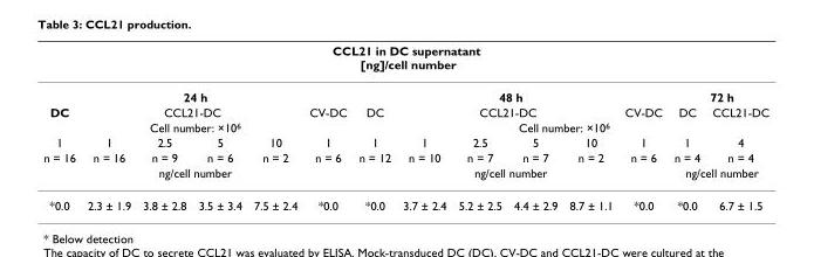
<table><thead><tr><td colspan="14">CCL21 in DC supernatant [ng]/cell number</td></tr></thead><tbody><tr><td colspan="6">24 h</td><td colspan="6">48 h</td><td colspan="2">72 h</td></tr><tr><td>DC</td><td colspan="4">CCL21-DC</td><td>CV-DC</td><td>DC</td><td colspan="4">CCL21-DC</td><td>CV-DC</td><td>DC</td><td>CCL21-DC</td></tr><tr><td colspan="6">Cell number: ×10<sup>6</sup></td><td colspan="8">Cell number: ×10<sup>6</sup></td></tr><tr><td>1</td><td>1</td><td>2.5</td><td>5</td><td>10</td><td>1</td><td>1</td><td>1</td><td>2.5</td><td>5</td><td>10</td><td>1</td><td>1</td><td>4</td></tr><tr><td>n = 16</td><td>n = 16</td><td>n = 9</td><td>n = 6</td><td>n = 2</td><td>n = 6</td><td>n = 12</td><td>n = 10</td><td>n = 7</td><td>n = 7</td><td>n = 2</td><td>n = 6</td><td>n = 4</td><td>n = 4</td></tr><tr><td colspan="6">ng/cell number</td><td colspan="6">ng/cell number</td><td colspan="2">ng/cell number</td></tr><tr><td>*0.0</td><td>2.3 ± 1.9</td><td>3.8 ± 2.8</td><td>3.5 ± 3.4</td><td>7.5 ± 2.4</td><td>*0.0</td><td>*0.0</td><td>3.7 ± 2.4</td><td>5.2 ± 2.5</td><td>4.4 ± 2.9</td><td>8.7 ± 1.1</td><td>*0.0</td><td>*0.0</td><td>6.7 ± 1.5</td></tr></tbody></table>